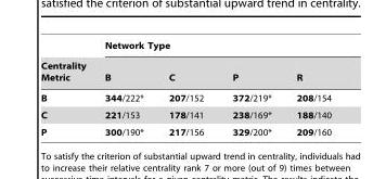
<table><thead><tr><td rowspan="2">Centrality Metric</td><td colspan="4">Network Type</td></tr><tr><td>B</td><td>C</td><td>P</td><td>R</td></tr></thead><tbody><tr><td>B</td><td>344/222*</td><td>207/152</td><td>372/219*</td><td>208/154</td></tr><tr><td>C</td><td>221/153</td><td>178/141</td><td>238/169*</td><td>188/140</td></tr><tr><td>P</td><td>300/190*</td><td>217/156</td><td>329/200*</td><td>209/160</td></tr></tbody></table>